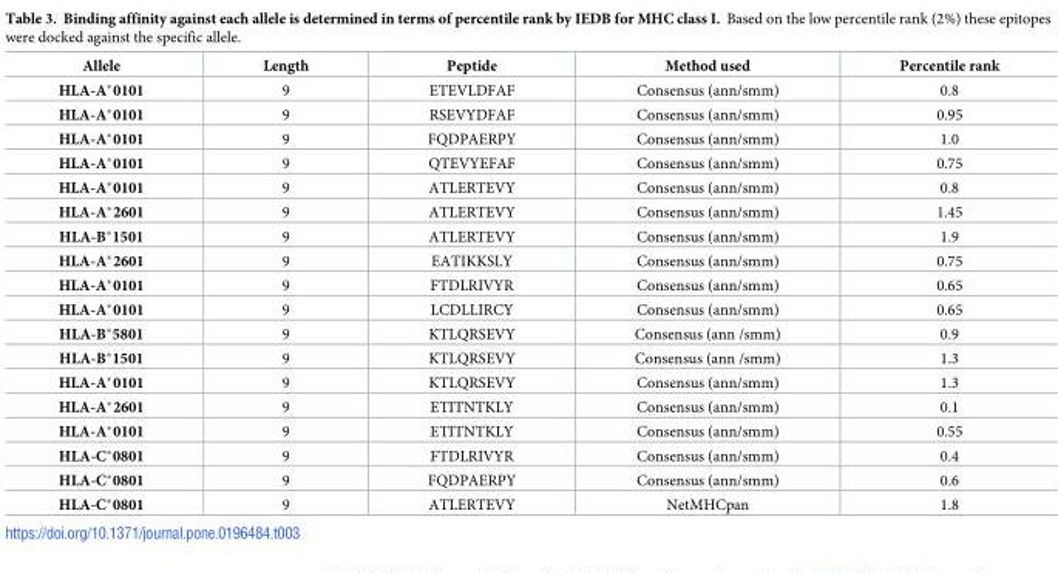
<table><thead><tr><td>Allele</td><td>Length</td><td>Peptide</td><td>Method used</td><td>Percentile rank</td></tr></thead><tbody><tr><td>HLA-A*0101</td><td>9</td><td>ETEVLDFAF</td><td>Consensus (ann/smm)</td><td>0.8</td></tr><tr><td>HLA-A*0101</td><td>9</td><td>RSEVYDFAF</td><td>Consensus (ann/smm)</td><td>0.95</td></tr><tr><td>HLA-A*0101</td><td>9</td><td>FQDPAERPY</td><td>Consensus (ann/smm)</td><td>1.0</td></tr><tr><td>HLA-A*0101</td><td>9</td><td>QTEVYEFAF</td><td>Consensus (ann/smm)</td><td>0.75</td></tr><tr><td>HLA-A*0101</td><td>9</td><td>ATLERTEVY</td><td>Consensus (ann/smm)</td><td>0.8</td></tr><tr><td>HLA-A*2601</td><td>9</td><td>ATLERTEVY</td><td>Consensus (ann/smm)</td><td>1.45</td></tr><tr><td>HLA-B*1501</td><td>9</td><td>ATLERTEVY</td><td>Consensus (ann/smm)</td><td>1.9</td></tr><tr><td>HLA-A*2601</td><td>9</td><td>EATIKKSLY</td><td>Consensus (ann/smm)</td><td>0.75</td></tr><tr><td>HLA-A*0101</td><td>9</td><td>FTDLRIVYR</td><td>Consensus (ann/smm)</td><td>0.65</td></tr><tr><td>HLA-A*0101</td><td>9</td><td>LCDLLIRCY</td><td>Consensus (ann/smm)</td><td>0.65</td></tr><tr><td>HLA-B*5801</td><td>9</td><td>KTLQRSEVY</td><td>Consensus (ann /smm)</td><td>0.9</td></tr><tr><td>HLA-B*1501</td><td>9</td><td>KTLQRSEVY</td><td>Consensus (ann /smm)</td><td>1.3</td></tr><tr><td>HLA-A*0101</td><td>9</td><td>KTLQRSEVY</td><td>Consensus (ann/smm)</td><td>1.3</td></tr><tr><td>HLA-A*2601</td><td>9</td><td>ETITNTKLY</td><td>Consensus (ann/smm)</td><td>0.1</td></tr><tr><td>HLA-A*0101</td><td>9</td><td>ETITNTKLY</td><td>Consensus (ann/smm)</td><td>0.55</td></tr><tr><td>HLA-C*0801</td><td>9</td><td>FTDLRIVYR</td><td>Consensus (ann/smm)</td><td>0.4</td></tr><tr><td>HLA-C*0801</td><td>9</td><td>FQDPAERPY</td><td>Consensus (ann/smm)</td><td>0.6</td></tr><tr><td>HLA-C*0801</td><td>9</td><td>ATLERTEVY</td><td>NetMHCpan</td><td>1.8</td></tr></tbody></table>